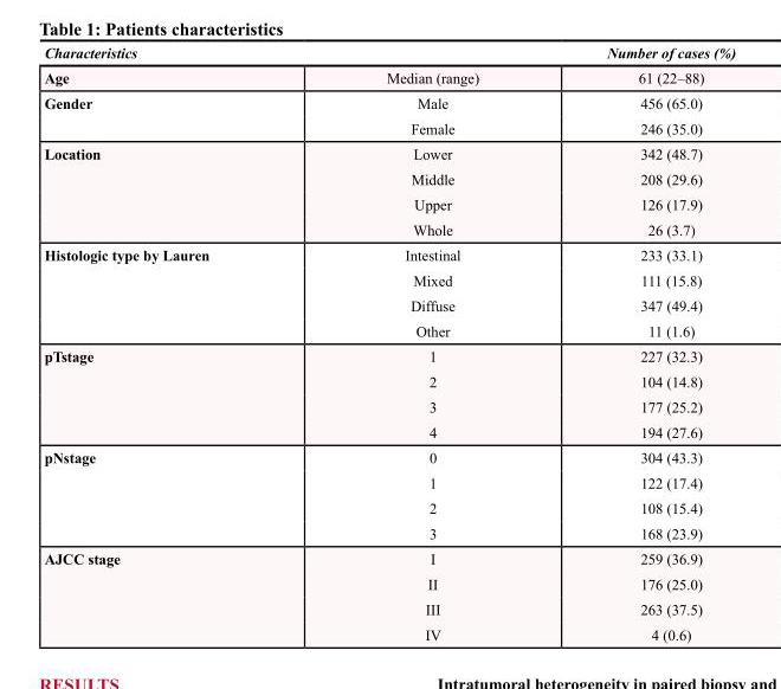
<table><thead><tr><td colspan="2">Characteristics</td><td rowspan="2">Number of cases (%) 61 (22–88)</td></tr><tr><td>Age</td><td>Median (range)</td></tr></thead><tbody><tr><td>Gender</td><td>Male Female</td><td>456 (65.0) 246 (35.0)</td></tr><tr><td>Location</td><td>Lower Middle Upper Whole</td><td>342 (48.7) 208 (29.6) 126 (17.9) 26 (3.7)</td></tr><tr><td>Histologic type by Lauren</td><td>Intestinal Mixed Diffuse Other</td><td>233 (33.1) 111 (15.8) 347 (49.4) 11 (1.6)</td></tr><tr><td>pTstage</td><td>1 2 3 4</td><td>227 (32.3) 104 (14.8) 177 (25.2) 194 (27.6)</td></tr><tr><td>pNstage</td><td>0 1 2 3</td><td>304 (43.3) 122 (17.4) 108 (15.4) 168 (23.9)</td></tr><tr><td>AJCC stage</td><td>I II III IV</td><td>259 (36.9) 176 (25.0) 263 (37.5) 4 (0.6)</td></tr></tbody></table>